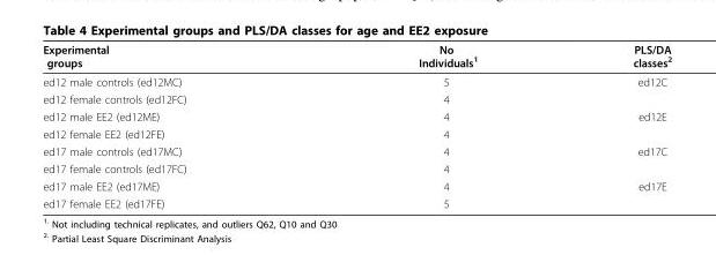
<table><thead><tr><td>Experimental groups</td><td>No Individuals<sup>1</sup></td><td>PLS/DA classes<sup>2</sup></td></tr></thead><tbody><tr><td>ed12 male controls (ed12MC)</td><td>5</td><td>ed12C</td></tr><tr><td>ed12 female controls (ed12FC)</td><td>4</td><td></td></tr><tr><td>ed12 male EE2 (ed12ME)</td><td>4</td><td>ed12E</td></tr><tr><td>ed12 female EE2 (ed12FE)</td><td>4</td><td></td></tr><tr><td>ed17 male controls (ed17MC)</td><td>4</td><td>ed17C</td></tr><tr><td>ed17 female controls (ed17FC)</td><td>4</td><td></td></tr><tr><td>ed17 male EE2 (ed17ME)</td><td>4</td><td>ed17E</td></tr><tr><td>ed17 female EE2 (ed17FE)</td><td>5</td><td></td></tr></tbody></table>